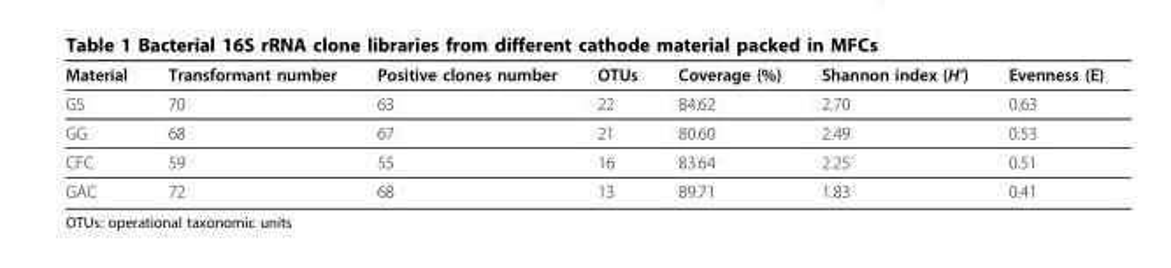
<table><thead><tr><td>Material</td><td>Transformant number</td><td>Positive clones number</td><td>OTUs</td><td>Coverage (%)</td><td>Shannon index (H’)</td><td>Evenness (E)</td></tr></thead><tbody><tr><td>GS</td><td>70</td><td>63</td><td>22</td><td>84.62</td><td>2.70</td><td>0.63</td></tr><tr><td>GG</td><td>68</td><td>67</td><td>21</td><td>80.60</td><td>2.49</td><td>0.53</td></tr><tr><td>CFC</td><td>59</td><td>55</td><td>16</td><td>83.64</td><td>2.25</td><td>0.51</td></tr><tr><td>GAC</td><td>72</td><td>68</td><td>13</td><td>89.71</td><td>1.83</td><td>0.41</td></tr></tbody></table>